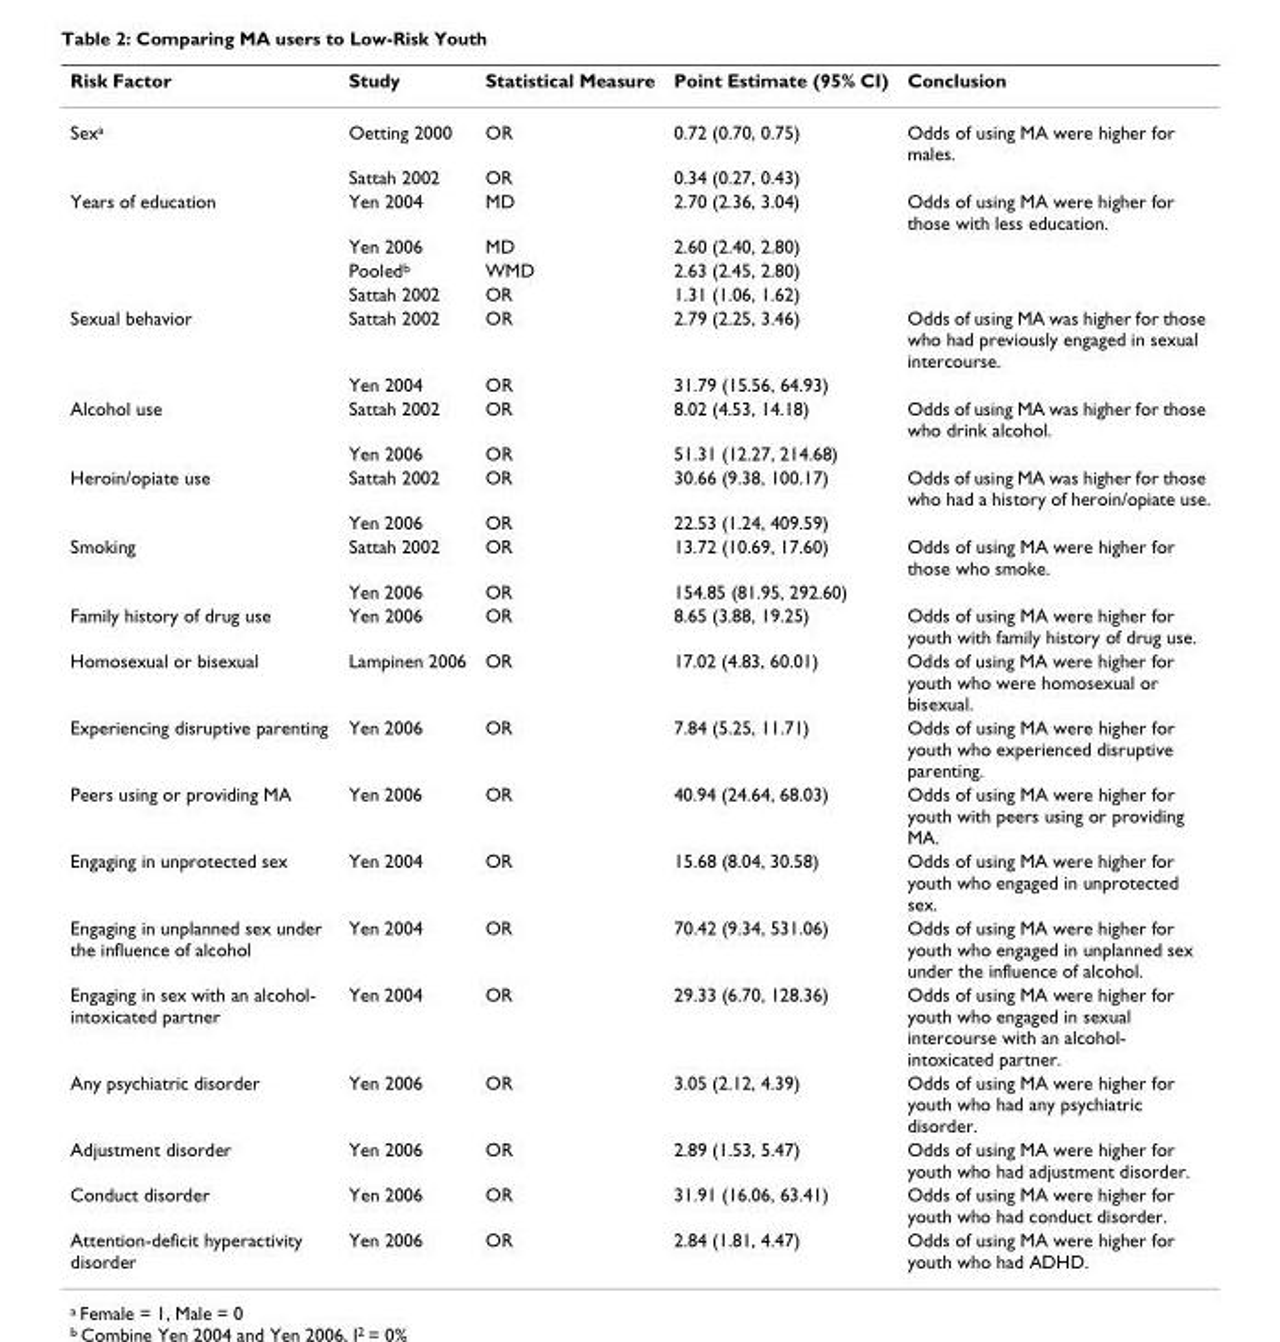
<table><thead><tr><td>Risk Factor</td><td>Study</td><td>Statistical Measure</td><td>Point Estimate (95% CI)</td><td>Conclusion</td></tr></thead><tbody><tr><td rowspan="2">Sex<sup>a</sup></td><td>Oetting 2000</td><td>OR</td><td>0.72 (0.70, 0.75)</td><td>Odds of using MA were higher for males.</td></tr><tr><td>Sattah 2002</td><td>OR</td><td>0.34 (0.27, 0.43)</td><td></td></tr><tr><td rowspan="4">Years of education</td><td>Yen 2004</td><td>MD</td><td>2.70 (2.36, 3.04)</td><td>Odds of using MA were higher for those with less education.</td></tr><tr><td>Yen 2006</td><td>MD</td><td>2.60 (2.40, 2.80)</td><td></td></tr><tr><td>Pooled<sup>b</sup></td><td>WMD</td><td>2.63 (2.45, 2.80)</td><td></td></tr><tr><td>Sattah 2002</td><td>OR</td><td>1.31 (1.06, 1.62)</td><td></td></tr><tr><td rowspan="2">Sexual behavior</td><td>Sattah 2002</td><td>OR</td><td>2.79 (2.25, 3.46)</td><td>Odds of using MA was higher for those who had previously engaged in sexual intercourse.</td></tr><tr><td>Yen 2004</td><td>OR</td><td>31.79 (15.56, 64.93)</td><td></td></tr><tr><td rowspan="2">Alcohol use</td><td>Sattah 2002</td><td>OR</td><td>8.02 (4.53, 14.18)</td><td>Odds of using MA was higher for those who drink alcohol.</td></tr><tr><td>Yen 2006</td><td>OR</td><td>51.31 (12.27, 214.68)</td><td></td></tr><tr><td rowspan="2">Heroin/opiate use</td><td>Sattah 2002</td><td>OR</td><td>30.66 (9.38, 100.17)</td><td>Odds of using MA was higher for those who had a history of heroin/opiate use.</td></tr><tr><td>Yen 2006</td><td>OR</td><td>22.53 (1.24, 409.59)</td><td></td></tr><tr><td rowspan="2">Smoking</td><td>Sattah 2002</td><td>OR</td><td>13.72 (10.69, 17.60)</td><td>Odds of using MA were higher for those who smoke.</td></tr><tr><td>Yen 2006</td><td>OR</td><td>154.85 (81.95, 292.60)</td><td></td></tr><tr><td>Family history of drug use</td><td>Yen 2006</td><td>OR</td><td>8.65 (3.88, 19.25)</td><td>Odds of using MA were higher for youth with family history of drug use.</td></tr><tr><td>Homosexual or bisexual</td><td>Lampinen 2006</td><td>OR</td><td>17.02 (4.83, 60.01)</td><td>Odds of using MA were higher for youth who were homosexual or bisexual.</td></tr><tr><td>Experiencing disruptive parenting</td><td>Yen 2006</td><td>OR</td><td>7.84 (5.25, 11.71)</td><td>Odds of using MA were higher for youth who experienced disruptive parenting.</td></tr><tr><td>Peers using or providing MA</td><td>Yen 2006</td><td>OR</td><td>40.94 (24.64, 68.03)</td><td>Odds of using MA were higher for youth with peers using or providing MA.</td></tr><tr><td>Engaging in unprotected sex</td><td>Yen 2004</td><td>OR</td><td>15.68 (8.04, 30.58)</td><td>Odds of using MA were higher for youth who engaged in unprotected sex.</td></tr><tr><td>Engaging in unplanned sex under the influence of alcohol</td><td>Yen 2004</td><td>OR</td><td>70.42 (9.34, 531.06)</td><td>Odds of using MA were higher for youth who engaged in unplanned sex under the influence of alcohol.</td></tr><tr><td>Engaging in sex with an alcohol- intoxicated partner</td><td>Yen 2004</td><td>OR</td><td>29.33 (6.70, 128.36)</td><td>Odds of using MA were higher for youth who engaged in sexual intercourse with an alcohol- intoxicated partner.</td></tr><tr><td>Any psychiatric disorder</td><td>Yen 2006</td><td>OR</td><td>3.05 (2.12, 4.39)</td><td>Odds of using MA were higher for youth who had any psychiatric disorder.</td></tr><tr><td>Adjustment disorder</td><td>Yen 2006</td><td>OR</td><td>2.89 (1.53, 5.47)</td><td>Odds of using MA were higher for youth who had adjustment disorder.</td></tr><tr><td>Conduct disorder</td><td>Yen 2006</td><td>OR</td><td>31.91 (16.06, 63.41)</td><td>Odds of using MA were higher for youth who had conduct disorder.</td></tr><tr><td>Attention-deficit hyperactivity disorder</td><td>Yen 2006</td><td>OR</td><td>2.84 (1.81, 4.47)</td><td>Odds of using MA were higher for youth who had ADHD.</td></tr></tbody></table>